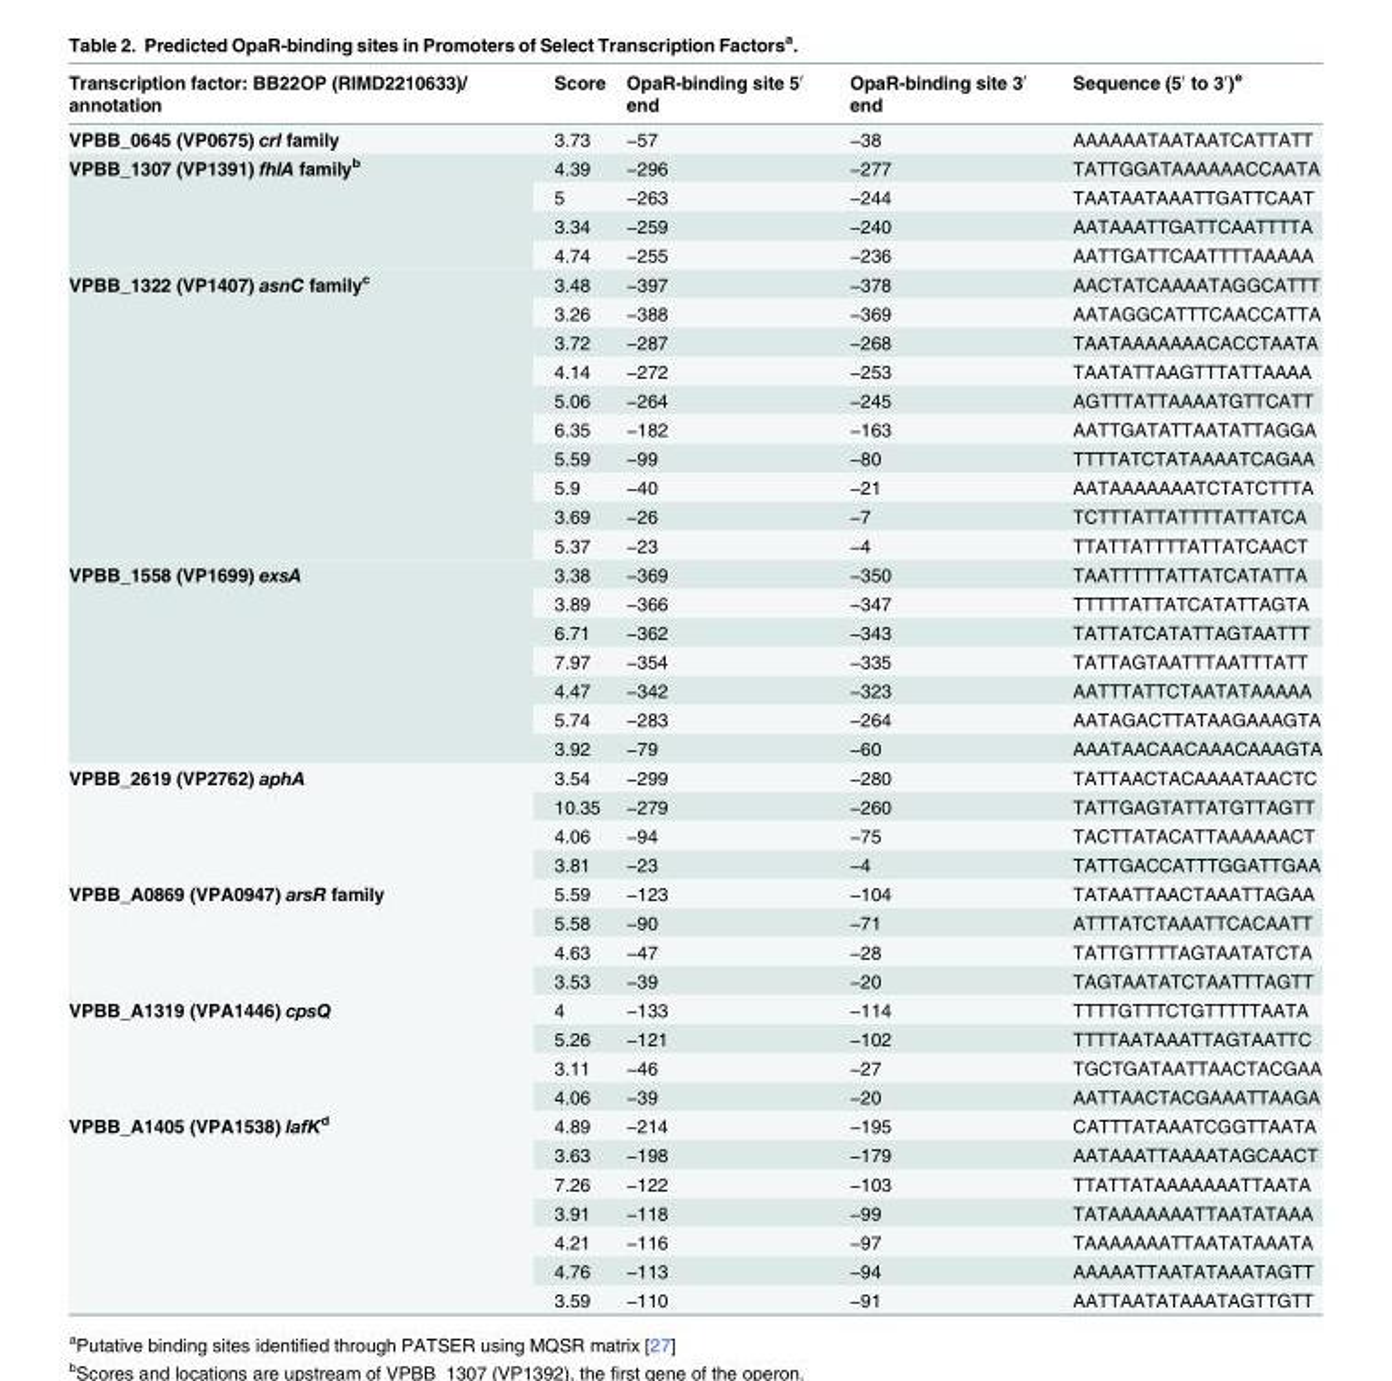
<table><thead><tr><td>Transcription factor: BB22OP (RIMD2210633)/ annotation</td><td>Score</td><td>OpaR-binding site 5′ end</td><td>OpaR-binding site 3′ end</td><td>Sequence (5′ to 3′)<sup>e</sup></td></tr></thead><tbody><tr><td>VPBB_0645 (VP0675) crl family</td><td>3.73</td><td>−57</td><td>−38</td><td>AAAAAATAATAATCATTATT</td></tr><tr><td rowspan="4">VPBB_1307 (VP1391) fhlA family<sup>b</sup></td><td>4.39</td><td>−296</td><td>−277</td><td>TATTGGATAAAAAACCAATA</td></tr><tr><td>5</td><td>−263</td><td>−244</td><td>TAATAATAAATTGATTCAAT</td></tr><tr><td>3.34</td><td>−259</td><td>−240</td><td>AATAAATTGATTCAATTTTA</td></tr><tr><td>4.74</td><td>−255</td><td>−236</td><td>AATTGATTCAATTTTAAAAA</td></tr><tr><td rowspan="10">VPBB_1322 (VP1407) asnC family<sup>c</sup></td><td>3.48</td><td>−397</td><td>−378</td><td>AACTATCAAAATAGGCATTT</td></tr><tr><td>3.26</td><td>−388</td><td>−369</td><td>AATAGGCATTTCAACCATTA</td></tr><tr><td>3.72</td><td>−287</td><td>−268</td><td>TAATAAAAAAACACCTAATA</td></tr><tr><td>4.14</td><td>−272</td><td>−253</td><td>TAATATTAAGTTTATTAAAA</td></tr><tr><td>5.06</td><td>−264</td><td>−245</td><td>AGTTTATTAAAATGTTCATT</td></tr><tr><td>6.35</td><td>−182</td><td>−163</td><td>AATTGATATTAATATTAGGA</td></tr><tr><td>5.59</td><td>−99</td><td>−80</td><td>TTTTATCTATAAAATCAGAA</td></tr><tr><td>5.9</td><td>−40</td><td>−21</td><td>AATAAAAAAATCTATCTTTA</td></tr><tr><td>3.69</td><td>−26</td><td>−7</td><td>TCTTTATTATTTTATTATCA</td></tr><tr><td>5.37</td><td>−23</td><td>−4</td><td>TTATTATTTTATTATCAACT</td></tr><tr><td rowspan="7">VPBB_1558 (VP1699) exsA</td><td>3.38</td><td>−369</td><td>−350</td><td>TAATTTTTATTATCATATTA</td></tr><tr><td>3.89</td><td>−366</td><td>−347</td><td>TTTTTATTATCATATTAGTA</td></tr><tr><td>6.71</td><td>−362</td><td>−343</td><td>TATTATCATATTAGTAATTT</td></tr><tr><td>7.97</td><td>−354</td><td>−335</td><td>TATTAGTAATTTAATTTATT</td></tr><tr><td>4.47</td><td>−342</td><td>−323</td><td>AATTTATTCTAATATAAAAA</td></tr><tr><td>5.74</td><td>−283</td><td>−264</td><td>AATAGACTTATAAGAAAGTA</td></tr><tr><td>3.92</td><td>−79</td><td>−60</td><td>AAATAACAACAAACAAAGTA</td></tr><tr><td rowspan="4">VPBB_2619 (VP2762) aphA</td><td>3.54</td><td>−299</td><td>−280</td><td>TATTAACTACAAAATAACTC</td></tr><tr><td>10.35</td><td>−279</td><td>−260</td><td>TATTGAGTATTATGTTAGTT</td></tr><tr><td>4.06</td><td>−94</td><td>−75</td><td>TACTTATACATTAAAAAACT</td></tr><tr><td>3.81</td><td>−23</td><td>−4</td><td>TATTGACCATTTGGATTGAA</td></tr><tr><td rowspan="4">VPBB_A0869 (VPA0947) arsR family</td><td>5.59</td><td>−123</td><td>−104</td><td>TATAATTAACTAAATTAGAA</td></tr><tr><td>5.58</td><td>−90</td><td>−71</td><td>ATTTATCTAAATTCACAATT</td></tr><tr><td>4.63</td><td>−47</td><td>−28</td><td>TATTGTTTTAGTAATATCTA</td></tr><tr><td>3.53</td><td>−39</td><td>−20</td><td>TAGTAATATCTAATTTAGTT</td></tr><tr><td rowspan="4">VPBB_A1319 (VPA1446) cpsQ</td><td>4</td><td>−133</td><td>−114</td><td>TTTTGTTTCTGTTTTTAATA</td></tr><tr><td>5.26</td><td>−121</td><td>−102</td><td>TTTTAATAAATTAGTAATTC</td></tr><tr><td>3.11</td><td>−46</td><td>−27</td><td>TGCTGATAATTAACTACGAA</td></tr><tr><td>4.06</td><td>−39</td><td>−20</td><td>AATTAACTACGAAATTAAGA</td></tr><tr><td rowspan="7">VPBB_A1405 (VPA1538) lafK<sup>d</sup></td><td>4.89</td><td>−214</td><td>−195</td><td>CATTTATAAATCGGTTAATA</td></tr><tr><td>3.63</td><td>−198</td><td>−179</td><td>AATAAATTAAAATAGCAACT</td></tr><tr><td>7.26</td><td>−122</td><td>−103</td><td>TTATTATAAAAAAATTAATA</td></tr><tr><td>3.91</td><td>−118</td><td>−99</td><td>TATAAAAAAATTAATATAAA</td></tr><tr><td>4.21</td><td>−116</td><td>−97</td><td>TAAAAAAATTAATATAAATA</td></tr><tr><td>4.76</td><td>−113</td><td>−94</td><td>AAAAATTAATATAAATAGTT</td></tr><tr><td>3.59</td><td>−110</td><td>−91</td><td>AATTAATATAAATAGTTGTT</td></tr></tbody></table>